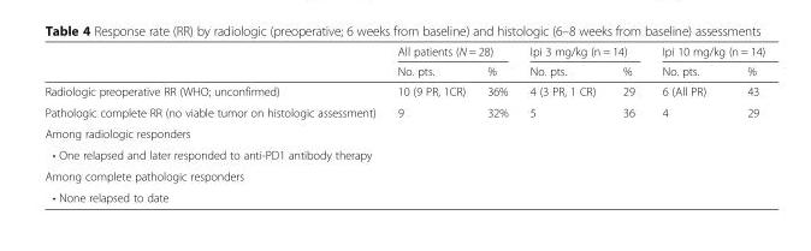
<table><thead><tr><td rowspan="2"></td><td colspan="2">All patients (N = 28)</td><td colspan="2">Ipi 3 mg/kg (n = 14)</td><td colspan="2">Ipi 10 mg/kg (n = 14)</td></tr><tr><td>No. pts.</td><td>%</td><td>No. pts.</td><td>%</td><td>No. pts.</td><td>%</td></tr></thead><tbody><tr><td>Radiologic preoperative RR (WHO; unconfirmed)</td><td>10 (9 PR, 1CR)</td><td>36%</td><td>4 (3 PR, 1 CR)</td><td>29</td><td>6 (All PR)</td><td>43</td></tr><tr><td>Pathologic complete RR (no viable tumor on histologic assessment)</td><td>9</td><td>32%</td><td>5</td><td>36</td><td>4</td><td>29</td></tr><tr><td colspan="7">Among radiologic responders</td></tr><tr><td colspan="7">• One relapsed and later responded to anti-PD1 antibody therapy</td></tr><tr><td colspan="7">Among complete pathologic responders</td></tr><tr><td colspan="7">• None relapsed to date</td></tr></tbody></table>